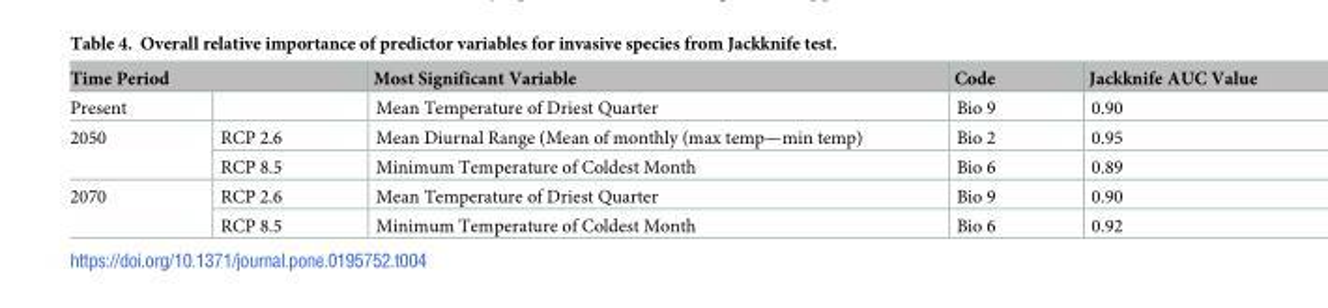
<table><thead><tr><td colspan="2">Time Period</td><td rowspan="2">Most Significant Variable Mean Temperature of Driest Quarter</td><td rowspan="2">Code Bio 9</td><td rowspan="2">Jackknife AUC Value 0.90</td></tr><tr><td>Present</td><td></td></tr></thead><tbody><tr><td rowspan="2">2050</td><td>RCP 2.6</td><td>Mean Diurnal Range (Mean of monthly (max temp—min temp)</td><td>Bio 2</td><td>0.95</td></tr><tr><td>RCP 8.5</td><td>Minimum Temperature of Coldest Month</td><td>Bio 6</td><td>0.89</td></tr><tr><td rowspan="2">2070</td><td>RCP 2.6</td><td>Mean Temperature of Driest Quarter</td><td>Bio 9</td><td>0.90</td></tr><tr><td>RCP 8.5</td><td>Minimum Temperature of Coldest Month</td><td>Bio 6</td><td>0.92</td></tr></tbody></table>